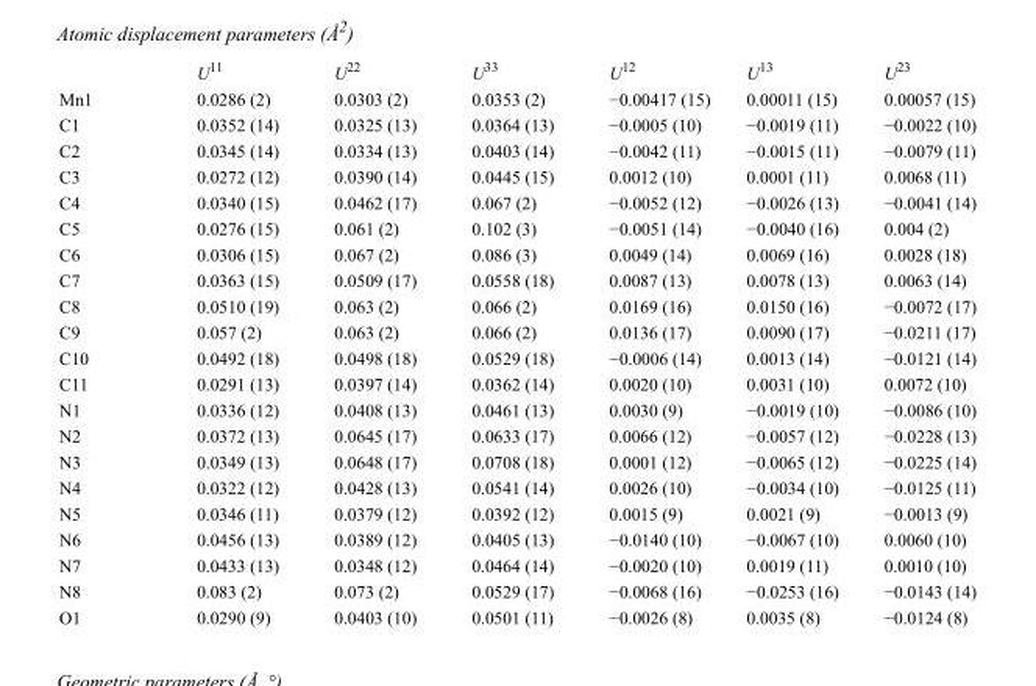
<table><thead><tr><td></td><td>U<sup>11</sup></td><td>U<sup>22</sup></td><td>U<sup>33</sup></td><td>U<sup>12</sup></td><td>U<sup>13</sup></td><td>U<sup>23</sup></td></tr></thead><tbody><tr><td>Mn1</td><td>0.0286 (2)</td><td>0.0303 (2)</td><td>0.0353 (2)</td><td>−0.00417 (15)</td><td>0.00011 (15)</td><td>0.00057 (15)</td></tr><tr><td>C1</td><td>0.0352 (14)</td><td>0.0325 (13)</td><td>0.0364 (13)</td><td>−0.0005 (10)</td><td>−0.0019 (11)</td><td>−0.0022 (10)</td></tr><tr><td>C2</td><td>0.0345 (14)</td><td>0.0334 (13)</td><td>0.0403 (14)</td><td>−0.0042 (11)</td><td>−0.0015 (11)</td><td>−0.0079 (11)</td></tr><tr><td>C3</td><td>0.0272 (12)</td><td>0.0390 (14)</td><td>0.0445 (15)</td><td>0.0012 (10)</td><td>0.0001 (11)</td><td>0.0068 (11)</td></tr><tr><td>C4</td><td>0.0340 (15)</td><td>0.0462 (17)</td><td>0.067 (2)</td><td>−0.0052 (12)</td><td>−0.0026 (13)</td><td>−0.0041 (14)</td></tr><tr><td>C5</td><td>0.0276 (15)</td><td>0.061 (2)</td><td>0.102 (3)</td><td>−0.0051 (14)</td><td>−0.0040 (16)</td><td>0.004 (2)</td></tr><tr><td>C6</td><td>0.0306 (15)</td><td>0.067 (2)</td><td>0.086 (3)</td><td>0.0049 (14)</td><td>0.0069 (16)</td><td>0.0028 (18)</td></tr><tr><td>C7</td><td>0.0363 (15)</td><td>0.0509 (17)</td><td>0.0558 (18)</td><td>0.0087 (13)</td><td>0.0078 (13)</td><td>0.0063 (14)</td></tr><tr><td>C8</td><td>0.0510 (19)</td><td>0.063 (2)</td><td>0.066 (2)</td><td>0.0169 (16)</td><td>0.0150 (16)</td><td>−0.0072 (17)</td></tr><tr><td>C9</td><td>0.057 (2)</td><td>0.063 (2)</td><td>0.066 (2)</td><td>0.0136 (17)</td><td>0.0090 (17)</td><td>−0.0211 (17)</td></tr><tr><td>C10</td><td>0.0492 (18)</td><td>0.0498 (18)</td><td>0.0529 (18)</td><td>−0.0006 (14)</td><td>0.0013 (14)</td><td>−0.0121 (14)</td></tr><tr><td>C11</td><td>0.0291 (13)</td><td>0.0397 (14)</td><td>0.0362 (14)</td><td>0.0020 (10)</td><td>0.0031 (10)</td><td>0.0072 (10)</td></tr><tr><td>N1</td><td>0.0336 (12)</td><td>0.0408 (13)</td><td>0.0461 (13)</td><td>0.0030 (9)</td><td>−0.0019 (10)</td><td>−0.0086 (10)</td></tr><tr><td>N2</td><td>0.0372 (13)</td><td>0.0645 (17)</td><td>0.0633 (17)</td><td>0.0066 (12)</td><td>−0.0057 (12)</td><td>−0.0228 (13)</td></tr><tr><td>N3</td><td>0.0349 (13)</td><td>0.0648 (17)</td><td>0.0708 (18)</td><td>0.0001 (12)</td><td>−0.0065 (12)</td><td>−0.0225 (14)</td></tr><tr><td>N4</td><td>0.0322 (12)</td><td>0.0428 (13)</td><td>0.0541 (14)</td><td>0.0026 (10)</td><td>−0.0034 (10)</td><td>−0.0125 (11)</td></tr><tr><td>N5</td><td>0.0346 (11)</td><td>0.0379 (12)</td><td>0.0392 (12)</td><td>0.0015 (9)</td><td>0.0021 (9)</td><td>−0.0013 (9)</td></tr><tr><td>N6</td><td>0.0456 (13)</td><td>0.0389 (12)</td><td>0.0405 (13)</td><td>−0.0140 (10)</td><td>−0.0067 (10)</td><td>0.0060 (10)</td></tr><tr><td>N7</td><td>0.0433 (13)</td><td>0.0348 (12)</td><td>0.0464 (14)</td><td>−0.0020 (10)</td><td>0.0019 (11)</td><td>0.0010 (10)</td></tr><tr><td>N8</td><td>0.083 (2)</td><td>0.073 (2)</td><td>0.0529 (17)</td><td>−0.0068 (16)</td><td>−0.0253 (16)</td><td>−0.0143 (14)</td></tr><tr><td>O1</td><td>0.0290 (9)</td><td>0.0403 (10)</td><td>0.0501 (11)</td><td>−0.0026 (8)</td><td>0.0035 (8)</td><td>−0.0124 (8)</td></tr></tbody></table>